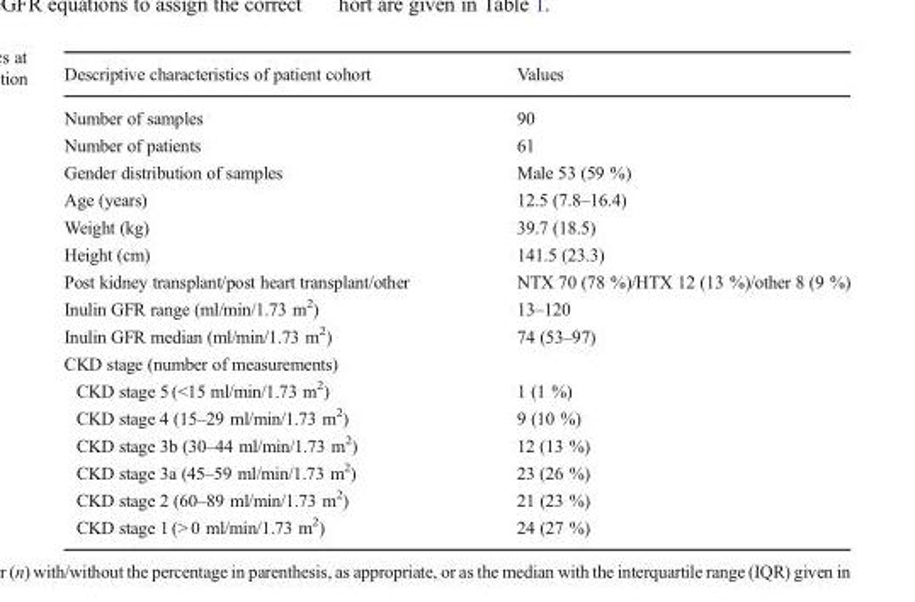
<table><thead><tr><td>Descriptive characteristics of patient cohort</td><td>Values</td></tr></thead><tbody><tr><td>Number of samples</td><td>90</td></tr><tr><td>Number of patients</td><td>61</td></tr><tr><td>Gender distribution of samples</td><td>Male 53 (59 %)</td></tr><tr><td>Age (years)</td><td>12.5 (7.8–16.4)</td></tr><tr><td>Weight (kg)</td><td>39.7 (18.5)</td></tr><tr><td>Height (cm)</td><td>141.5 (23.3)</td></tr><tr><td>Post kidney transplant/post heart transplant/other</td><td>NTX 70 (78 %)/HTX 12 (13 %)/other 8 (9 %)</td></tr><tr><td>Inulin GFR range (ml/min/1.73 m<sup>2</sup>)</td><td>13–120</td></tr><tr><td>Inulin GFR median (ml/min/1.73 m<sup>2</sup>)</td><td>74 (53–97)</td></tr><tr><td colspan="2">CKD stage (number of measurements)</td></tr><tr><td>CKD stage 5 (&lt;15 ml/min/1.73 m<sup>2</sup>)</td><td>1 (1 %)</td></tr><tr><td>CKD stage 4 (15–29 ml/min/1.73 m<sup>2</sup>)</td><td>9 (10 %)</td></tr><tr><td>CKD stage 3b (30–44 ml/min/1.73 m<sup>2</sup>)</td><td>12 (13 %)</td></tr><tr><td>CKD stage 3a (45–59 ml/min/1.73 m<sup>2</sup>)</td><td>23 (26 %)</td></tr><tr><td>CKD stage 2 (60–89 ml/min/1.73 m<sup>2</sup>)</td><td>21 (23 %)</td></tr><tr><td>CKD stage 1 (&gt; 0 ml/min/1.73 m<sup>2</sup>)</td><td>24 (27 %)</td></tr></tbody></table>